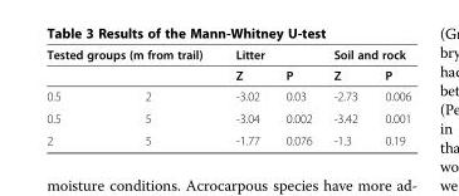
<table><thead><tr><td colspan="2">Tested groups (m from trail)</td><td rowspan="2">Litter Z</td><td rowspan="2">P</td><td colspan="2">Soil and rock</td></tr><tr><td></td><td></td><td>Z</td><td>P</td></tr></thead><tbody><tr><td>0.5</td><td>2</td><td>-3.02</td><td>0.03</td><td>-2.73</td><td>0.006</td></tr><tr><td>0.5</td><td>5</td><td>-3.04</td><td>0.002</td><td>-3.42</td><td>0.001</td></tr><tr><td>2</td><td>5</td><td>-1.77</td><td>0.076</td><td>-1.3</td><td>0.19</td></tr></tbody></table>